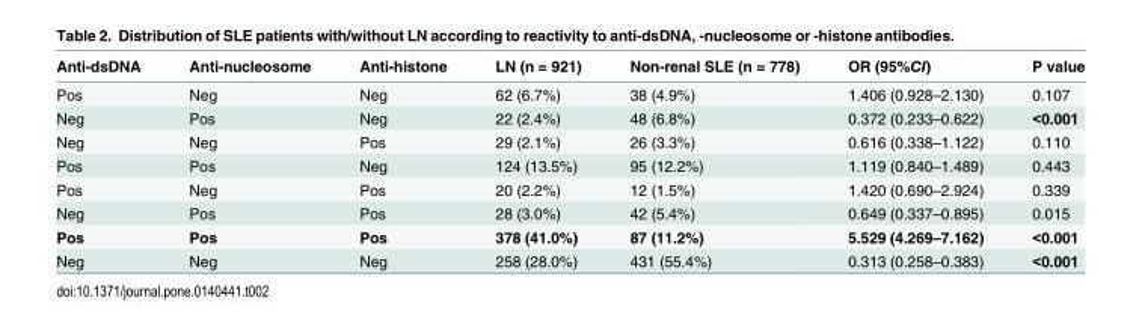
<table><thead><tr><td>Anti-dsDNA</td><td>Anti-nucleosome</td><td>Anti-histone</td><td>LN (n = 921)</td><td>Non-renal SLE (n = 778)</td><td>OR (95%CI)</td><td>P value</td></tr></thead><tbody><tr><td>Pos</td><td>Neg</td><td>Neg</td><td>62 (6.7%)</td><td>38 (4.9%)</td><td>1.406 (0.928–2.130)</td><td>0.107</td></tr><tr><td>Neg</td><td>Pos</td><td>Neg</td><td>22 (2.4%)</td><td>48 (6.8%)</td><td>0.372 (0.233–0.622)</td><td>&lt;0.001</td></tr><tr><td>Neg</td><td>Neg</td><td>Pos</td><td>29 (2.1%)</td><td>26 (3.3%)</td><td>0.616 (0.338–1.122)</td><td>0.110</td></tr><tr><td>Pos</td><td>Pos</td><td>Neg</td><td>124 (13.5%)</td><td>95 (12.2%)</td><td>1.119 (0.840–1.489)</td><td>0.443</td></tr><tr><td>Pos</td><td>Neg</td><td>Pos</td><td>20 (2.2%)</td><td>12 (1.5%)</td><td>1.420 (0.690–2.924)</td><td>0.339</td></tr><tr><td>Neg</td><td>Pos</td><td>Pos</td><td>28 (3.0%)</td><td>42 (5.4%)</td><td>0.649 (0.337–0.895)</td><td>0.015</td></tr><tr><td>Pos</td><td>Pos</td><td>Pos</td><td>378 (41.0%)</td><td>87 (11.2%)</td><td>5.529 (4.269–7.162)</td><td>&lt;0.001</td></tr><tr><td>Neg</td><td>Neg</td><td>Neg</td><td>258 (28.0%)</td><td>431 (55.4%)</td><td>0.313 (0.258–0.383)</td><td>&lt;0.001</td></tr></tbody></table>